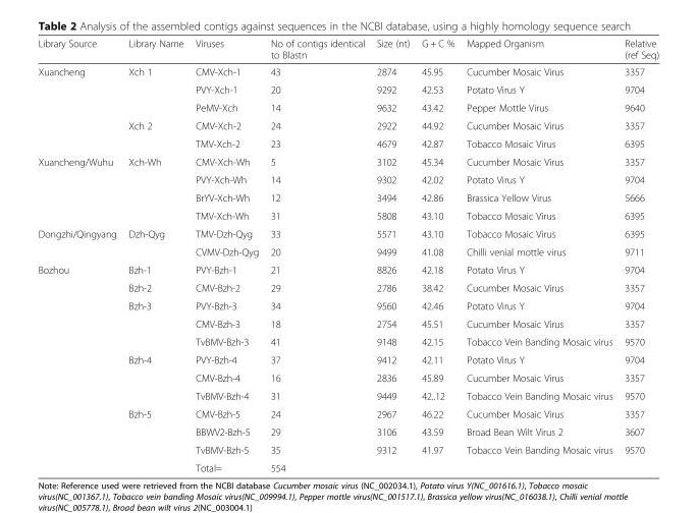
<table><thead><tr><td>Library Source</td><td>Library Name</td><td>Viruses</td><td>No of contigs identical to Blastn</td><td>Size (nt)</td><td>G + C %</td><td>Mapped Organism</td><td>Relative (ref Seq)</td></tr></thead><tbody><tr><td rowspan="5">Xuancheng</td><td>Xch 1</td><td>CMV-Xch-1</td><td>43</td><td>2874</td><td>45.95</td><td>Cucumber Mosaic Virus</td><td>3357</td></tr><tr><td></td><td>PVY-Xch-1</td><td>20</td><td>9292</td><td>42.53</td><td>Potato Virus Y</td><td>9704</td></tr><tr><td></td><td>PeMV-Xch</td><td>14</td><td>9632</td><td>43.42</td><td>Pepper Mottle Virus</td><td>9640</td></tr><tr><td>Xch 2</td><td>CMV-Xch-2</td><td>24</td><td>2922</td><td>44.92</td><td>Cucumber Mosaic Virus</td><td>3357</td></tr><tr><td></td><td>TMV-Xch-2</td><td>23</td><td>4679</td><td>42.87</td><td>Tobacco Mosaic Virus</td><td>6395</td></tr><tr><td rowspan="4">Xuancheng/Wuhu</td><td>Xch-Wh</td><td>CMV-Xch-Wh</td><td>5</td><td>3102</td><td>45.34</td><td>Cucumber Mosaic Virus</td><td>3357</td></tr><tr><td></td><td>PVY-Xch-Wh</td><td>14</td><td>9302</td><td>42.02</td><td>Potato Virus Y</td><td>9704</td></tr><tr><td></td><td>BrYV-Xch-Wh</td><td>12</td><td>3494</td><td>42.86</td><td>Brassica Yellow Virus</td><td>5666</td></tr><tr><td></td><td>TMV-Xch-Wh</td><td>31</td><td>5808</td><td>43.10</td><td>Tobacco Mosaic Virus</td><td>6395</td></tr><tr><td rowspan="2">Dongzhi/Qingyang</td><td>Dzh-Qyg</td><td>TMV-Dzh-Qyg</td><td>33</td><td>5571</td><td>43.10</td><td>Tobacco Mosaic Virus</td><td>6395</td></tr><tr><td></td><td>CVMV-Dzh-Qyg</td><td>20</td><td>9499</td><td>41.08</td><td>Chilli venial mottle virus</td><td>9711</td></tr><tr><td rowspan="12">Bozhou</td><td>Bzh-1</td><td>PVY-Bzh-1</td><td>21</td><td>8826</td><td>42.18</td><td>Potato Virus Y</td><td>9704</td></tr><tr><td>Bzh-2</td><td>CMV-Bzh-2</td><td>29</td><td>2786</td><td>38.42</td><td>Cucumber Mosaic Virus</td><td>3357</td></tr><tr><td>Bzh-3</td><td>PVY-Bzh-3</td><td>34</td><td>9560</td><td>42.46</td><td>Potato Virus Y</td><td>9704</td></tr><tr><td></td><td>CMV-Bzh-3</td><td>18</td><td>2754</td><td>45.51</td><td>Cucumber Mosaic Virus</td><td>3357</td></tr><tr><td></td><td>TvBMV-Bzh-3</td><td>41</td><td>9148</td><td>42.15</td><td>Tobacco Vein Banding Mosaic virus</td><td>9570</td></tr><tr><td>Bzh-4</td><td>PVY-Bzh-4</td><td>37</td><td>9412</td><td>42.11</td><td>Potato Virus Y</td><td>9704</td></tr><tr><td></td><td>CMV-Bzh-4</td><td>16</td><td>2836</td><td>45.89</td><td>Cucumber Mosaic Virus</td><td>3357</td></tr><tr><td></td><td>TvBMV-Bzh-4</td><td>31</td><td>9449</td><td>42..12</td><td>Tobacco Vein Banding Mosaic virus</td><td>9570</td></tr><tr><td>Bzh-5</td><td>CMV-Bzh-5</td><td>24</td><td>2967</td><td>46.22</td><td>Cucumber Mosaic Virus</td><td>3357</td></tr><tr><td></td><td>BBWV2-Bzh-5</td><td>29</td><td>3106</td><td>43.59</td><td>Broad Bean Wilt Virus 2</td><td>3607</td></tr><tr><td></td><td>TvBMV-Bzh-5</td><td>35</td><td>9312</td><td>41.97</td><td>Tobacco Vein Banding Mosaic virus</td><td>9570</td></tr><tr><td></td><td>Total=</td><td>554</td><td></td><td></td><td></td><td></td></tr></tbody></table>